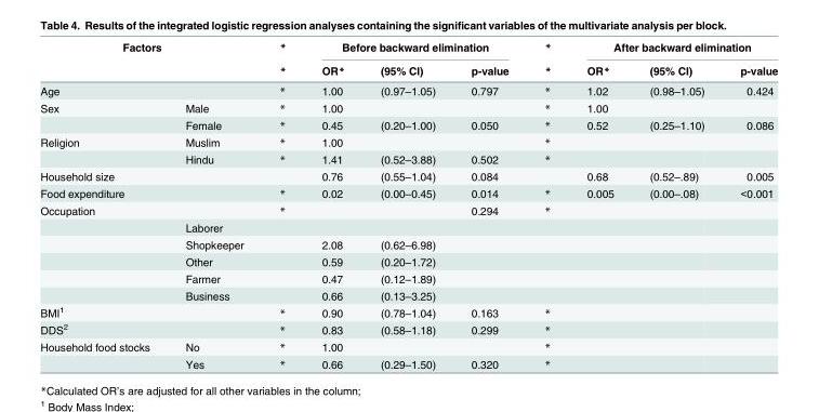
<table><thead><tr><td colspan="2">Factors</td><td rowspan="2">* *</td><td colspan="3">Before backward elimination</td><td rowspan="2">* *</td><td colspan="3">After backward elimination</td></tr><tr><td></td><td></td><td>OR*</td><td>(95% CI)</td><td>p-value</td><td>OR*</td><td>(95% CI)</td><td>p-value</td></tr></thead><tbody><tr><td colspan="2">Age</td><td>*</td><td>1.00</td><td>(0.97–1.05)</td><td>0.797</td><td>*</td><td>1.02</td><td>(0.98–1.05)</td><td>0.424</td></tr><tr><td rowspan="2">Sex</td><td>Male</td><td>*</td><td>1.00</td><td></td><td></td><td>*</td><td>1.00</td><td></td><td></td></tr><tr><td>Female</td><td>*</td><td>0.45</td><td>(0.20–1.00)</td><td>0.050</td><td>*</td><td>0.52</td><td>(0.25–1.10)</td><td>0.086</td></tr><tr><td rowspan="2">Religion</td><td>Muslim</td><td>*</td><td>1.00</td><td></td><td></td><td>*</td><td></td><td></td><td></td></tr><tr><td>Hindu</td><td>*</td><td>1.41</td><td>(0.52–3.88)</td><td>0.502</td><td>*</td><td></td><td></td><td></td></tr><tr><td colspan="2">Household size</td><td></td><td>0.76</td><td>(0.55–1.04)</td><td>0.084</td><td></td><td>0.68</td><td>(0.52–.89)</td><td>0.005</td></tr><tr><td colspan="2">Food expenditure</td><td>*</td><td>0.02</td><td>(0.00–0.45)</td><td>0.014</td><td>*</td><td>0.005</td><td>(0.00–.08)</td><td>&lt;0.001</td></tr><tr><td colspan="2">Occupation</td><td>*</td><td></td><td></td><td>0.294</td><td>*</td><td></td><td></td><td></td></tr><tr><td></td><td>Laborer</td><td></td><td></td><td></td><td></td><td></td><td></td><td></td><td></td></tr><tr><td></td><td>Shopkeeper</td><td></td><td>2.08</td><td>(0.62–6.98)</td><td></td><td></td><td></td><td></td><td></td></tr><tr><td></td><td>Other</td><td></td><td>0.59</td><td>(0.20–1.72)</td><td></td><td></td><td></td><td></td><td></td></tr><tr><td></td><td>Farmer</td><td></td><td>0.47</td><td>(0.12–1.89)</td><td></td><td></td><td></td><td></td><td></td></tr><tr><td></td><td>Business</td><td></td><td>0.66</td><td>(0.13–3.25)</td><td></td><td></td><td></td><td></td><td></td></tr><tr><td colspan="2">BMI<sup>1</sup></td><td>*</td><td>0.90</td><td>(0.78–1.04)</td><td>0.163</td><td>*</td><td></td><td></td><td></td></tr><tr><td colspan="2">DDS<sup>2</sup></td><td>*</td><td>0.83</td><td>(0.58–1.18)</td><td>0.299</td><td>*</td><td></td><td></td><td></td></tr><tr><td rowspan="2">Household food stocks</td><td>No</td><td>*</td><td>1.00</td><td></td><td></td><td>*</td><td></td><td></td><td></td></tr><tr><td>Yes</td><td>*</td><td>0.66</td><td>(0.29–1.50)</td><td>0.320</td><td>*</td><td></td><td></td><td></td></tr></tbody></table>